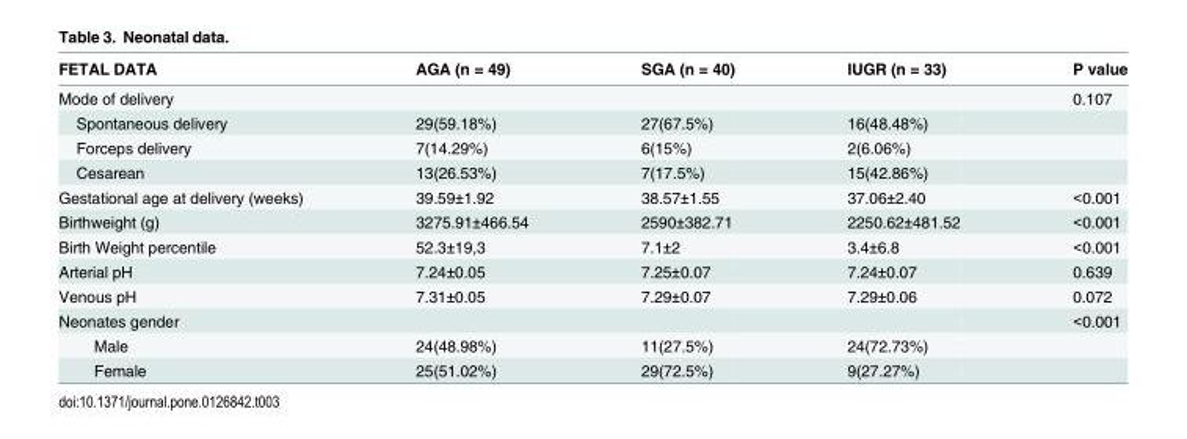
<table><thead><tr><td>FETAL DATA</td><td>AGA (n = 49)</td><td>SGA (n = 40)</td><td>IUGR (n = 33)</td><td>P value</td></tr></thead><tbody><tr><td>Mode of delivery</td><td></td><td></td><td></td><td>0.107</td></tr><tr><td>Spontaneous delivery</td><td>29(59.18%)</td><td>27(67.5%)</td><td>16(48.48%)</td><td></td></tr><tr><td>Forceps delivery</td><td>7(14.29%)</td><td>6(15%)</td><td>2(6.06%)</td><td></td></tr><tr><td>Cesarean</td><td>13(26.53%)</td><td>7(17.5%)</td><td>15(42.86%)</td><td></td></tr><tr><td>Gestational age at delivery (weeks)</td><td>39.59±1.92</td><td>38.57±1.55</td><td>37.06±2.40</td><td>&lt;0.001</td></tr><tr><td>Birthweight (g)</td><td>3275.91±466.54</td><td>2590±382.71</td><td>2250.62±481.52</td><td>&lt;0.001</td></tr><tr><td>Birth Weight percentile</td><td>52.3±19,3</td><td>7.1±2</td><td>3.4±6.8</td><td>&lt;0.001</td></tr><tr><td>Arterial pH</td><td>7.24±0.05</td><td>7.25±0.07</td><td>7.24±0.07</td><td>0.639</td></tr><tr><td>Venous pH</td><td>7.31±0.05</td><td>7.29±0.07</td><td>7.29±0.06</td><td>0.072</td></tr><tr><td>Neonates gender</td><td></td><td></td><td></td><td>&lt;0.001</td></tr><tr><td>Male</td><td>24(48.98%)</td><td>11(27.5%)</td><td>24(72.73%)</td><td></td></tr><tr><td>Female</td><td>25(51.02%)</td><td>29(72.5%)</td><td>9(27.27%)</td><td></td></tr></tbody></table>